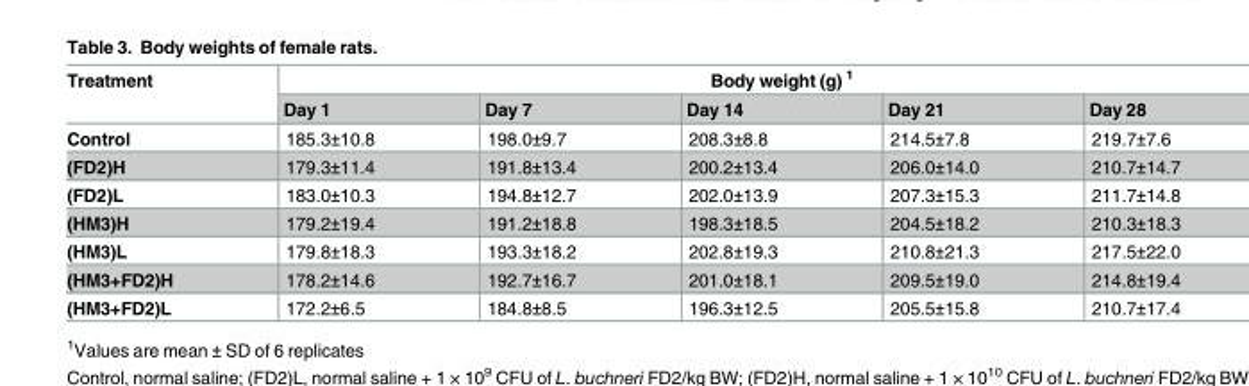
<table><thead><tr><td rowspan="2">Treatment</td><td colspan="5">Body weight (g) <sup>1</sup></td></tr><tr><td>Day 1</td><td>Day 7</td><td>Day 14</td><td>Day 21</td><td>Day 28</td></tr></thead><tbody><tr><td>Control</td><td>185.3±10.8</td><td>198.0±9.7</td><td>208.3±8.8</td><td>214.5±7.8</td><td>219.7±7.6</td></tr><tr><td>(FD2)H</td><td>179.3±11.4</td><td>191.8±13.4</td><td>200.2±13.4</td><td>206.0±14.0</td><td>210.7±14.7</td></tr><tr><td>(FD2)L</td><td>183.0±10.3</td><td>194.8±12.7</td><td>202.0±13.9</td><td>207.3±15.3</td><td>211.7±14.8</td></tr><tr><td>(HM3)H</td><td>179.2±19.4</td><td>191.2±18.8</td><td>198.3±18.5</td><td>204.5±18.2</td><td>210.3±18.3</td></tr><tr><td>(HM3)L</td><td>179.8±18.3</td><td>193.3±18.2</td><td>202.8±19.3</td><td>210.8±21.3</td><td>217.5±22.0</td></tr><tr><td>(HM3+FD2)H</td><td>178.2±14.6</td><td>192.7±16.7</td><td>201.0±18.1</td><td>209.5±19.0</td><td>214.8±19.4</td></tr><tr><td>(HM3+FD2)L</td><td>172.2±6.5</td><td>184.8±8.5</td><td>196.3±12.5</td><td>205.5±15.8</td><td>210.7±17.4</td></tr></tbody></table>